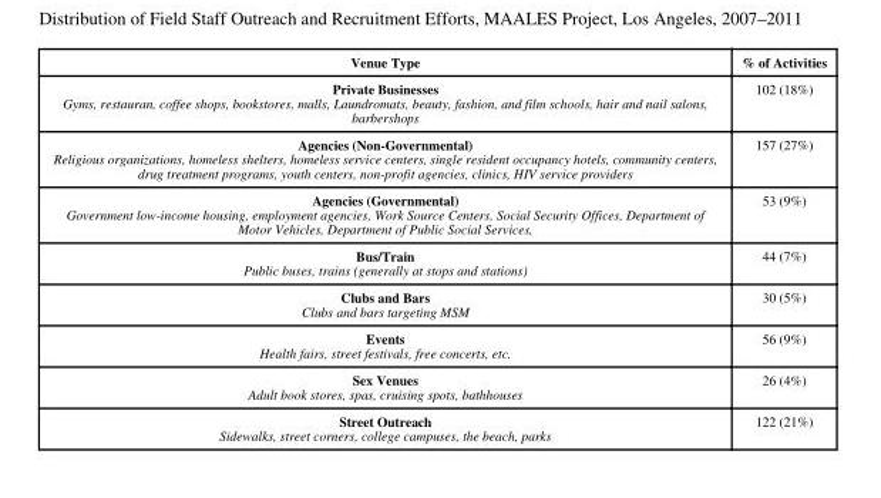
<table><thead><tr><td>Venue Type</td><td>% of Activities</td></tr></thead><tbody><tr><td>Private Businesses Gyms, restauran, coffee shops, bookstores, malls, Laundromats, beauty, fashion, and film schools, hair and nail salons, barbershops</td><td>102 (18%)</td></tr><tr><td>Agencies (Non-Governmental) Religious organizations, homeless shelters, homeless service centers, single resident occupancy hotels, community centers, drug treatment programs, youth centers, non-profit agencies, clinics, HIV service providers</td><td>157 (27%)</td></tr><tr><td>Agencies (Governmental) Government low-income housing, employment agencies, Work Source Centers, Social Security Offices, Department of Motor Vehicles, Department of Public Social Services,</td><td>53 (9%)</td></tr><tr><td>Bus/Train Public buses, trains (generally at stops and stations)</td><td>44 (7%)</td></tr><tr><td>Clubs and Bars Clubs and bars targeting MSM</td><td>30 (5%)</td></tr><tr><td>Events Health fairs, street festivals, free concerts, etc.</td><td>56 (9%)</td></tr><tr><td>Sex Venues Adult book stores, spas, cruising spots, bathhouses</td><td>26 (4%)</td></tr><tr><td>Street Outreach Sidewalks, street corners, college campuses, the beach, parks</td><td>122 (21%)</td></tr></tbody></table>